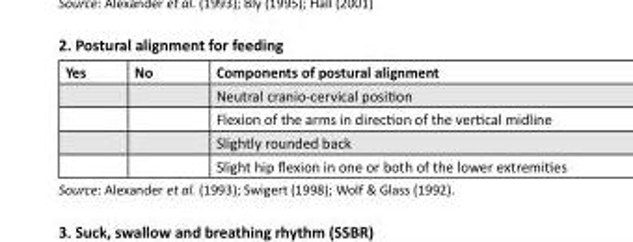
<table><thead><tr><td>Yes</td><td>No</td><td>Components of postural alignment</td></tr></thead><tbody><tr><td></td><td></td><td>Neutral cranio-cervical position</td></tr><tr><td></td><td></td><td>Flexion of the arms in direction of the vertical midline</td></tr><tr><td></td><td></td><td>Slightly rounded back</td></tr><tr><td></td><td></td><td>Slight hip flexion in one or both of the lower extremities</td></tr></tbody></table>